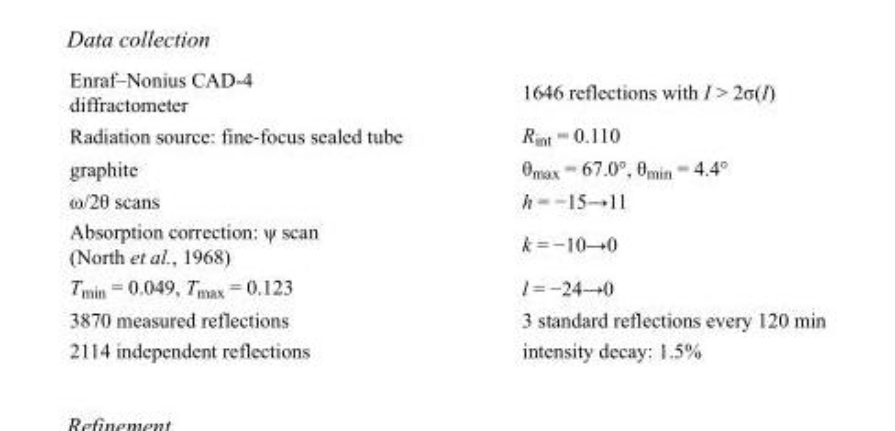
<table><tbody><tr><td>Enraf–Nonius CAD-4 diffractometer</td><td>1646 reflections with I &gt; 2σ(I)</td></tr><tr><td>Radiation source: fine-focus sealed tube</td><td>R<sub>int</sub> = 0.110</td></tr><tr><td>graphite</td><td>θ<sub>max</sub> = 67.0°, θ<sub>min</sub> = 4.4°</td></tr><tr><td>ω/2θ scans</td><td>h = −15→11</td></tr><tr><td>Absorption correction: ψ scan (North et al., 1968)</td><td>k = −10→0</td></tr><tr><td>T<sub>min</sub> = 0.049, T<sub>max</sub> = 0.123</td><td>l = −24→0</td></tr><tr><td>3870 measured reflections</td><td>3 standard reflections every 120 min</td></tr><tr><td>2114 independent reflections</td><td>intensity decay: 1.5%</td></tr></tbody></table>